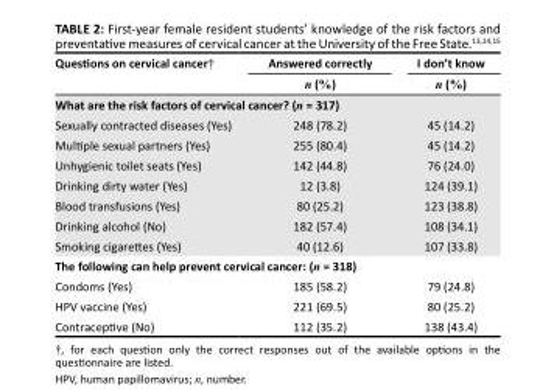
<table><thead><tr><td rowspan="2">Questions on cervical cancer†</td><td rowspan="2">Answered correctly n (%)</td><td rowspan="2">I don’t know n (%)</td></tr><tr></tr></thead><tbody><tr><td colspan="3">What are the risk factors of cervical cancer? (n = 317)</td></tr><tr><td>Sexually contracted diseases (Yes)</td><td>248 (78.2)</td><td>45 (14.2)</td></tr><tr><td>Multiple sexual partners (Yes)</td><td>255 (80.4)</td><td>45 (14.2)</td></tr><tr><td>Unhygienic toilet seats (Yes)</td><td>142 (44.8)</td><td>76 (24.0)</td></tr><tr><td>Drinking dirty water (Yes)</td><td>12 (3.8)</td><td>124 (39.1)</td></tr><tr><td>Blood transfusions (Yes)</td><td>80 (25.2)</td><td>123 (38.8)</td></tr><tr><td>Drinking alcohol (No)</td><td>182 (57.4)</td><td>108 (34.1)</td></tr><tr><td>Smoking cigarettes (Yes)</td><td>40 (12.6)</td><td>107 (33.8)</td></tr><tr><td colspan="3">The following can help prevent cervical cancer: (n = 318)</td></tr><tr><td>Condoms (Yes)</td><td>185 (58.2)</td><td>79 (24.8)</td></tr><tr><td>HPV vaccine (Yes)</td><td>221 (69.5)</td><td>80 (25.2)</td></tr><tr><td>Contraceptive (No)</td><td>112 (35.2)</td><td>138 (43.4)</td></tr></tbody></table>